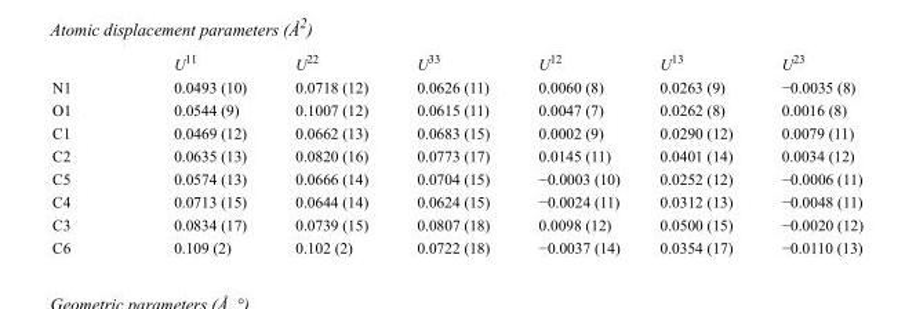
<table><thead><tr><td></td><td>U<sup>11</sup></td><td>U<sup>22</sup></td><td>U<sup>33</sup></td><td>U<sup>12</sup></td><td>U<sup>13</sup></td><td>U<sup>23</sup></td></tr></thead><tbody><tr><td>N1</td><td>0.0493 (10)</td><td>0.0718 (12)</td><td>0.0626 (11)</td><td>0.0060 (8)</td><td>0.0263 (9)</td><td>−0.0035 (8)</td></tr><tr><td>O1</td><td>0.0544 (9)</td><td>0.1007 (12)</td><td>0.0615 (11)</td><td>0.0047 (7)</td><td>0.0262 (8)</td><td>0.0016 (8)</td></tr><tr><td>C1</td><td>0.0469 (12)</td><td>0.0662 (13)</td><td>0.0683 (15)</td><td>0.0002 (9)</td><td>0.0290 (12)</td><td>0.0079 (11)</td></tr><tr><td>C2</td><td>0.0635 (13)</td><td>0.0820 (16)</td><td>0.0773 (17)</td><td>0.0145 (11)</td><td>0.0401 (14)</td><td>0.0034 (12)</td></tr><tr><td>C5</td><td>0.0574 (13)</td><td>0.0666 (14)</td><td>0.0704 (15)</td><td>−0.0003 (10)</td><td>0.0252 (12)</td><td>−0.0006 (11)</td></tr><tr><td>C4</td><td>0.0713 (15)</td><td>0.0644 (14)</td><td>0.0624 (15)</td><td>−0.0024 (11)</td><td>0.0312 (13)</td><td>−0.0048 (11)</td></tr><tr><td>C3</td><td>0.0834 (17)</td><td>0.0739 (15)</td><td>0.0807 (18)</td><td>0.0098 (12)</td><td>0.0500 (15)</td><td>−0.0020 (12)</td></tr><tr><td>C6</td><td>0.109 (2)</td><td>0.102 (2)</td><td>0.0722 (18)</td><td>−0.0037 (14)</td><td>0.0354 (17)</td><td>−0.0110 (13)</td></tr></tbody></table>